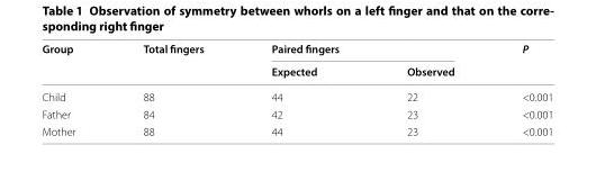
<table><thead><tr><td rowspan="2">Group</td><td rowspan="2">Total fingers</td><td colspan="2">Paired fingers</td><td rowspan="2">P</td></tr><tr><td>Expected</td><td>Observed</td></tr></thead><tbody><tr><td>Child</td><td>88</td><td>44</td><td>22</td><td>&lt;0.001</td></tr><tr><td>Father</td><td>84</td><td>42</td><td>23</td><td>&lt;0.001</td></tr><tr><td>Mother</td><td>88</td><td>44</td><td>23</td><td>&lt;0.001</td></tr></tbody></table>